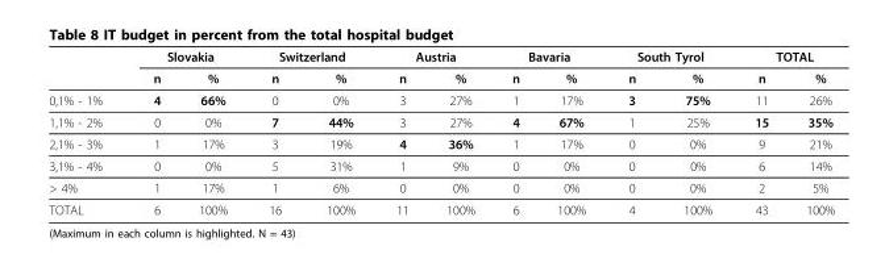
<table><thead><tr><td rowspan="2"></td><td colspan="2">Slovakia</td><td colspan="2">Switzerland</td><td colspan="2">Austria</td><td colspan="2">Bavaria</td><td colspan="2">South Tyrol</td><td colspan="2">TOTAL</td></tr><tr><td>n</td><td>%</td><td>n</td><td>%</td><td>n</td><td>%</td><td>n</td><td>%</td><td>n</td><td>%</td><td>n</td><td>%</td></tr></thead><tbody><tr><td>0,1% - 1%</td><td>4</td><td>66%</td><td>0</td><td>0%</td><td>3</td><td>27%</td><td>1</td><td>17%</td><td>3</td><td>75%</td><td>11</td><td>26%</td></tr><tr><td>1,1% - 2%</td><td>0</td><td>0%</td><td>7</td><td>44%</td><td>3</td><td>27%</td><td>4</td><td>67%</td><td>1</td><td>25%</td><td>15</td><td>35%</td></tr><tr><td>2,1% - 3%</td><td>1</td><td>17%</td><td>3</td><td>19%</td><td>4</td><td>36%</td><td>1</td><td>17%</td><td>0</td><td>0%</td><td>9</td><td>21%</td></tr><tr><td>3,1% - 4%</td><td>0</td><td>0%</td><td>5</td><td>31%</td><td>1</td><td>9%</td><td>0</td><td>0%</td><td>0</td><td>0%</td><td>6</td><td>14%</td></tr><tr><td>&gt; 4%</td><td>1</td><td>17%</td><td>1</td><td>6%</td><td>0</td><td>0%</td><td>0</td><td>0%</td><td>0</td><td>0%</td><td>2</td><td>5%</td></tr><tr><td>TOTAL</td><td>6</td><td>100%</td><td>16</td><td>100%</td><td>11</td><td>100%</td><td>6</td><td>100%</td><td>4</td><td>100%</td><td>43</td><td>100%</td></tr></tbody></table>